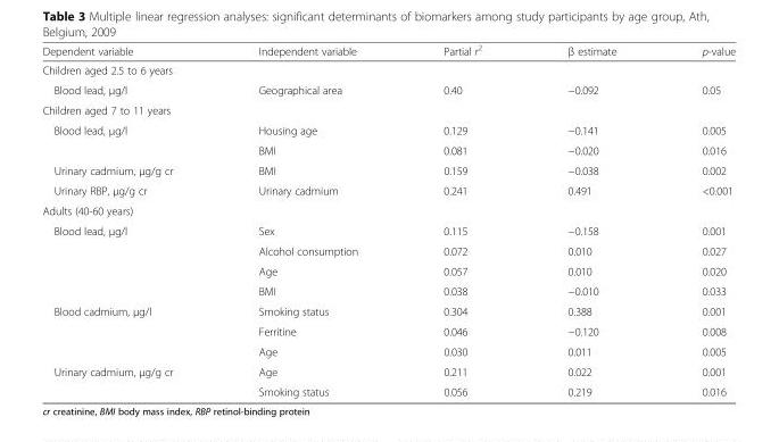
<table><thead><tr><td>Dependent variable</td><td>Independent variable</td><td>Partial r<sup>2</sup></td><td>β estimate</td><td>p-value</td></tr></thead><tbody><tr><td colspan="5">Children aged 2.5 to 6 years</td></tr><tr><td>Blood lead, μg/l</td><td>Geographical area</td><td>0.40</td><td>−0.092</td><td>0.05</td></tr><tr><td colspan="5">Children aged 7 to 11 years</td></tr><tr><td rowspan="2">Blood lead, μg/l</td><td>Housing age</td><td>0.129</td><td>−0.141</td><td>0.005</td></tr><tr><td>BMI</td><td>0.081</td><td>−0.020</td><td>0.016</td></tr><tr><td>Urinary cadmium, μg/g cr</td><td>BMI</td><td>0.159</td><td>−0.038</td><td>0.002</td></tr><tr><td>Urinary RBP, μg/g cr</td><td>Urinary cadmium</td><td>0.241</td><td>0.491</td><td>&lt;0.001</td></tr><tr><td colspan="5">Adults (40-60 years)</td></tr><tr><td rowspan="4">Blood lead, μg/l</td><td>Sex</td><td>0.115</td><td>−0.158</td><td>0.001</td></tr><tr><td>Alcohol consumption</td><td>0.072</td><td>0.010</td><td>0.027</td></tr><tr><td>Age</td><td>0.057</td><td>0.010</td><td>0.020</td></tr><tr><td>BMI</td><td>0.038</td><td>−0.010</td><td>0.033</td></tr><tr><td rowspan="3">Blood cadmium, μg/l</td><td>Smoking status</td><td>0.304</td><td>0.388</td><td>0.001</td></tr><tr><td>Ferritine</td><td>0.046</td><td>−0.120</td><td>0.008</td></tr><tr><td>Age</td><td>0.030</td><td>0.011</td><td>0.005</td></tr><tr><td rowspan="2">Urinary cadmium, μg/g cr</td><td>Age</td><td>0.211</td><td>0.022</td><td>0.001</td></tr><tr><td>Smoking status</td><td>0.056</td><td>0.219</td><td>0.016</td></tr></tbody></table>